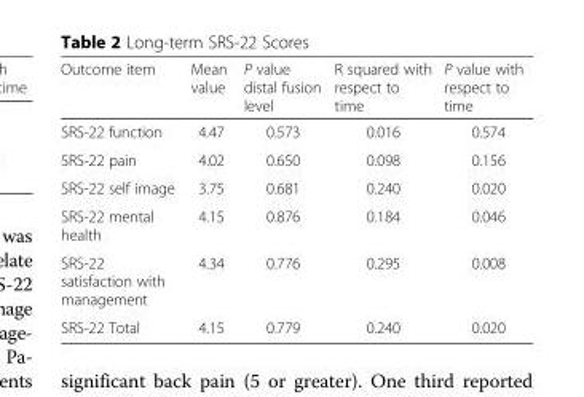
<table><thead><tr><td>Outcome item</td><td>Mean value</td><td>P value distal fusion level</td><td>R squared with respect to time</td><td>P value with respect to time</td></tr></thead><tbody><tr><td>SRS-22 function</td><td>4.47</td><td>0.573</td><td>0.016</td><td>0.574</td></tr><tr><td>SRS-22 pain</td><td>4.02</td><td>0.650</td><td>0.098</td><td>0.156</td></tr><tr><td>SRS-22 self image</td><td>3.75</td><td>0.681</td><td>0.240</td><td>0.020</td></tr><tr><td>SRS-22 mental health</td><td>4.15</td><td>0.876</td><td>0.184</td><td>0.046</td></tr><tr><td>SRS-22 satisfaction with management</td><td>4.34</td><td>0.776</td><td>0.295</td><td>0.008</td></tr><tr><td>SRS-22 Total</td><td>4.15</td><td>0.779</td><td>0.240</td><td>0.020</td></tr></tbody></table>